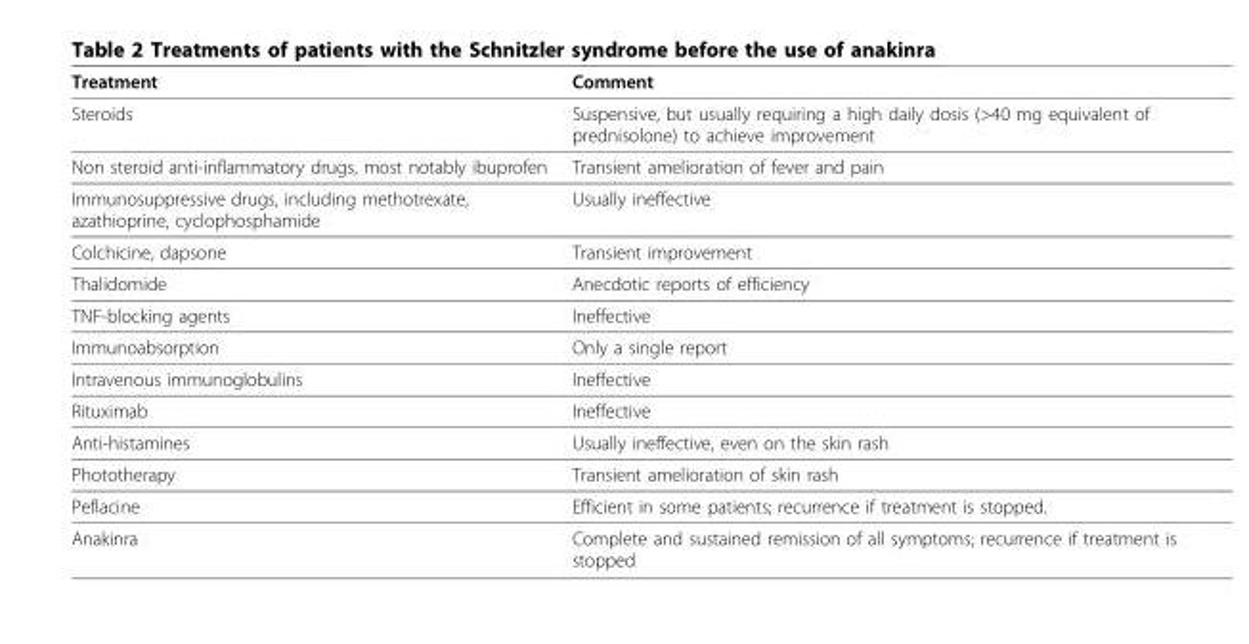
<table><thead><tr><td>Treatment</td><td>Comment</td></tr></thead><tbody><tr><td>Steroids</td><td>Suspensive, but usually requiring a high daily dosis (&gt;40 mg equivalent of prednisolone) to achieve improvement</td></tr><tr><td>Non steroid anti-inflammatory drugs, most notably ibuprofen</td><td>Transient amelioration of fever and pain</td></tr><tr><td>Immunosuppressive drugs, including methotrexate, azathioprine, cyclophosphamide</td><td>Usually ineffective</td></tr><tr><td>Colchicine, dapsone</td><td>Transient improvement</td></tr><tr><td>Thalidomide</td><td>Anecdotic reports of efficiency</td></tr><tr><td>TNF-blocking agents</td><td>Ineffective</td></tr><tr><td>Immunoabsorption</td><td>Only a single report</td></tr><tr><td>Intravenous immunoglobulins</td><td>Ineffective</td></tr><tr><td>Rituximab</td><td>Ineffective</td></tr><tr><td>Anti-histamines</td><td>Usually ineffective, even on the skin rash</td></tr><tr><td>Phototherapy</td><td>Transient amelioration of skin rash</td></tr><tr><td>Peflacine</td><td>Efficient in some patients; recurrence if treatment is stopped.</td></tr><tr><td>Anakinra</td><td>Complete and sustained remission of all symptoms; recurrence if treatment is stopped</td></tr></tbody></table>